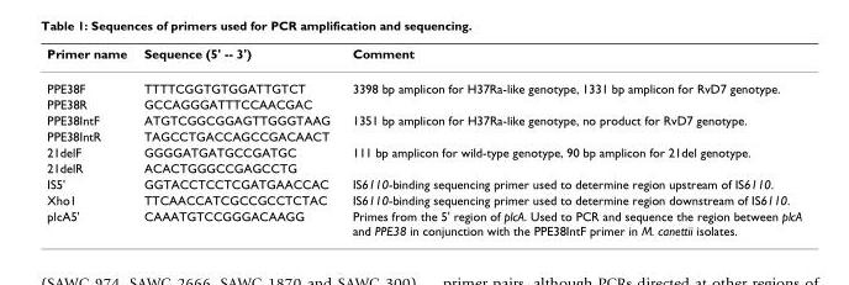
<table><thead><tr><td>Primer name</td><td>Sequence (5&#x27; -- 3&#x27;)</td><td>Comment</td></tr></thead><tbody><tr><td>PPE38F</td><td>TTTTCGGTGTGGATTGTCT</td><td>3398 bp amplicon for H37Ra-like genotype, 1331 bp amplicon for RvD7 genotype.</td></tr><tr><td>PPE38R</td><td>GCCAGGGATTTCCAACGAC</td><td></td></tr><tr><td>PPE38IntF</td><td>ATGTCGGCGGAGTTGGGTAAG</td><td>1351 bp amplicon for H37Ra-like genotype, no product for RvD7 genotype.</td></tr><tr><td>PPE38IntR</td><td>TAGCCTGACCAGCCGACAACT</td><td></td></tr><tr><td>21delF</td><td>GGGGATGATGCCGATGC</td><td>111 bp amplicon for wild-type genotype, 90 bp amplicon for 21del genotype.</td></tr><tr><td>21delR</td><td>ACACTGGGCCGAGCCTG</td><td></td></tr><tr><td>IS5&#x27;</td><td>GGTACCTCCTCGATGAACCAC</td><td>IS6110-binding sequencing primer used to determine region upstream of IS6110.</td></tr><tr><td>Xho1</td><td>TTCAACCATCGCCGCCTCTAC</td><td>IS6110-binding sequencing primer used to determine region downstream of IS6110.</td></tr><tr><td>plcA5&#x27;</td><td>CAAATGTCCGGGACAAGG</td><td>Primes from the 5&#x27; region of plcA. Used to PCR and sequence the region between plcA and PPE38 in conjunction with the PPE38IntF primer in M. canettii isolates.</td></tr></tbody></table>